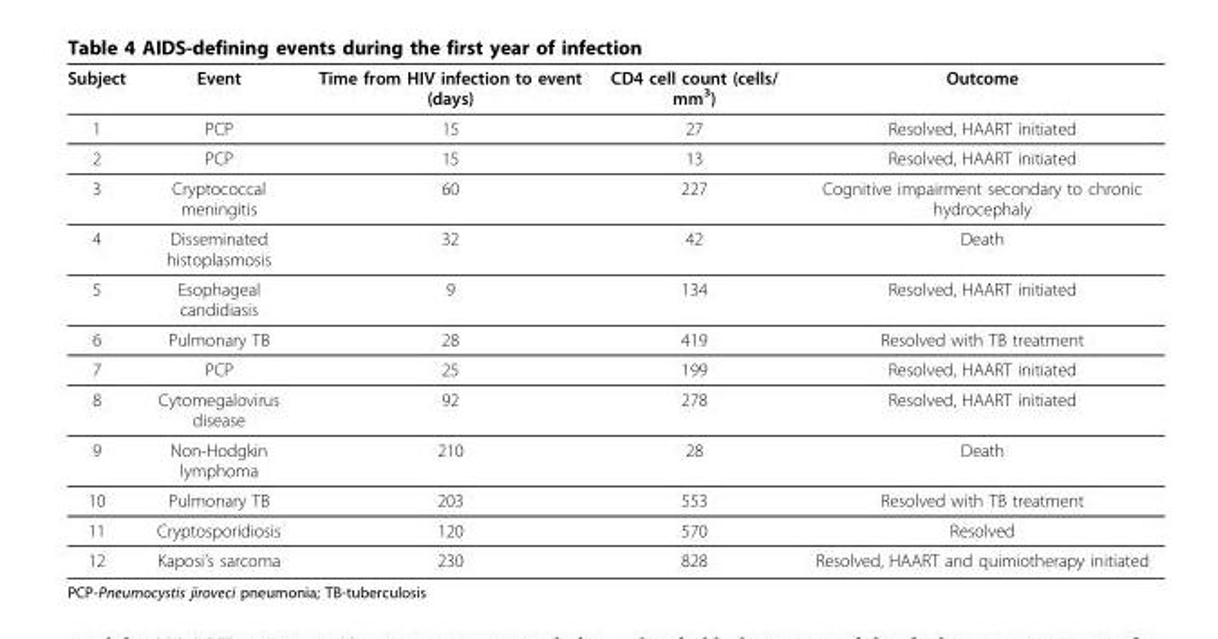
<table><thead><tr><td>Subject</td><td>Event</td><td>Time from HIV infection to event (days)</td><td>CD4 cell count (cells/ mm<sup>3</sup>)</td><td>Outcome</td></tr></thead><tbody><tr><td>1</td><td>PCP</td><td>15</td><td>27</td><td>Resolved, HAART initiated</td></tr><tr><td>2</td><td>PCP</td><td>15</td><td>13</td><td>Resolved, HAART initiated</td></tr><tr><td>3</td><td>Cryptococcal meningitis</td><td>60</td><td>227</td><td>Cognitive impairment secondary to chronic hydrocephaly</td></tr><tr><td>4</td><td>Disseminated histoplasmosis</td><td>32</td><td>42</td><td>Death</td></tr><tr><td>5</td><td>Esophageal candidiasis</td><td>9</td><td>134</td><td>Resolved, HAART initiated</td></tr><tr><td>6</td><td>Pulmonary TB</td><td>28</td><td>419</td><td>Resolved with TB treatment</td></tr><tr><td>7</td><td>PCP</td><td>25</td><td>199</td><td>Resolved, HAART initiated</td></tr><tr><td>8</td><td>Cytomegalovirus disease</td><td>92</td><td>278</td><td>Resolved, HAART initiated</td></tr><tr><td>9</td><td>Non-Hodgkin lymphoma</td><td>210</td><td>28</td><td>Death</td></tr><tr><td>10</td><td>Pulmonary TB</td><td>203</td><td>553</td><td>Resolved with TB treatment</td></tr><tr><td>11</td><td>Cryptosporidiosis</td><td>120</td><td>570</td><td>Resolved</td></tr><tr><td>12</td><td>Kaposi’s sarcoma</td><td>230</td><td>828</td><td>Resolved, HAART and quimiotherapy initiated</td></tr></tbody></table>